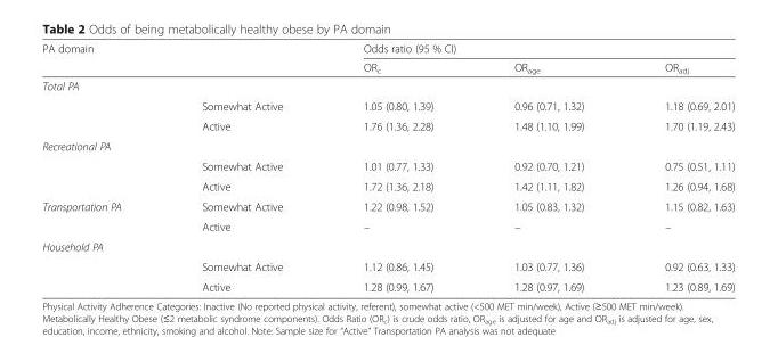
<table><thead><tr><td rowspan="2">PA domain</td><td rowspan="2"></td><td colspan="3">Odds ratio (95 % CI)</td></tr><tr><td>OR<sub>c</sub></td><td>OR<sub>age</sub></td><td>OR<sub>adj</sub></td></tr></thead><tbody><tr><td colspan="5">Total PA</td></tr><tr><td rowspan="2"></td><td>Somewhat Active</td><td>1.05 (0.80, 1.39)</td><td>0.96 (0.71, 1.32)</td><td>1.18 (0.69, 2.01)</td></tr><tr><td>Active</td><td>1.76 (1.36, 2.28)</td><td>1.48 (1.10, 1.99)</td><td>1.70 (1.19, 2.43)</td></tr><tr><td colspan="5">Recreational PA</td></tr><tr><td rowspan="2"></td><td>Somewhat Active</td><td>1.01 (0.77, 1.33)</td><td>0.92 (0.70, 1.21)</td><td>0.75 (0.51, 1.11)</td></tr><tr><td>Active</td><td>1.72 (1.36, 2.18)</td><td>1.42 (1.11, 1.82)</td><td>1.26 (0.94, 1.68)</td></tr><tr><td rowspan="2">Transportation PA</td><td>Somewhat Active</td><td>1.22 (0.98, 1.52)</td><td>1.05 (0.83, 1.32)</td><td>1.15 (0.82, 1.63)</td></tr><tr><td>Active</td><td>–</td><td>–</td><td>–</td></tr><tr><td colspan="5">Household PA</td></tr><tr><td rowspan="2"></td><td>Somewhat Active</td><td>1.12 (0.86, 1.45)</td><td>1.03 (0.77, 1.36)</td><td>0.92 (0.63, 1.33)</td></tr><tr><td>Active</td><td>1.28 (0.99, 1.67)</td><td>1.28 (0.97, 1.69)</td><td>1.23 (0.89, 1.69)</td></tr></tbody></table>